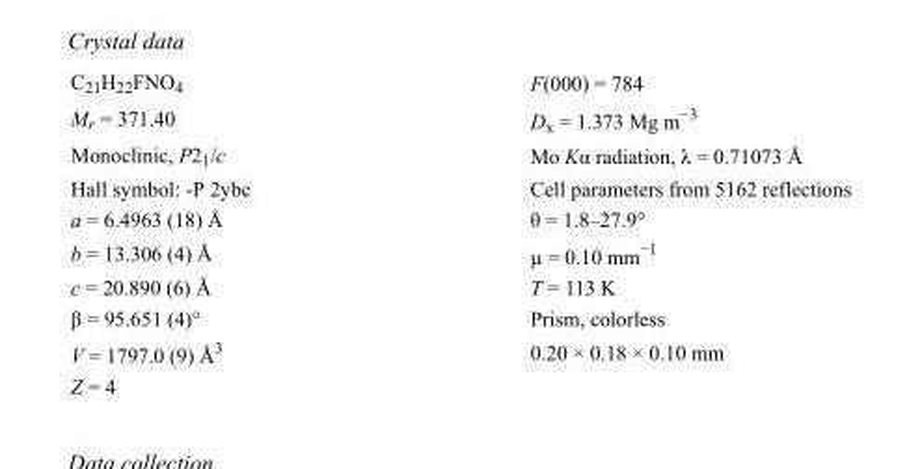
<table><tbody><tr><td>C<sub>21</sub>H<sub>22</sub>FNO<sub>4</sub></td><td>F(000) = 784</td></tr><tr><td>M<sub>r</sub> = 371.40</td><td>D<sub>x</sub> = 1.373 Mg m<sup>−3</sup></td></tr><tr><td>Monoclinic, P2<sub>1</sub>/c</td><td>Mo Kα radiation, λ = 0.71073 Å</td></tr><tr><td>Hall symbol: -P 2ybc</td><td>Cell parameters from 5162 reflections</td></tr><tr><td>a = 6.4963 (18) Å</td><td>θ = 1.8–27.9°</td></tr><tr><td>b = 13.306 (4) Å</td><td>µ = 0.10 mm<sup>−1</sup></td></tr><tr><td>c = 20.890 (6) Å</td><td>T = 113 K</td></tr><tr><td>β = 95.651 (4)°</td><td>Prism, colorless</td></tr><tr><td>V = 1797.0 (9) Å<sup>3</sup></td><td>0.20 × 0.18 × 0.10 mm</td></tr><tr><td>Z = 4</td><td></td></tr></tbody></table>